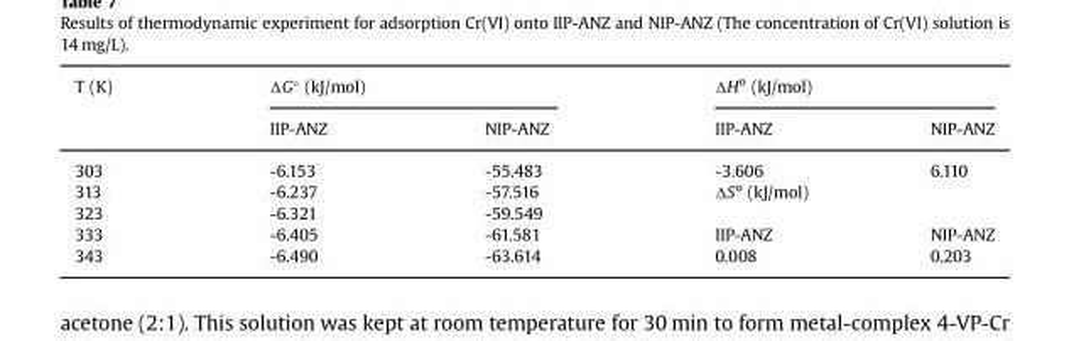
<table><thead><tr><td rowspan="2">T (K)</td><td colspan="2">ΔG° (kJ/mol)</td><td colspan="2">ΔHo (kJ/mol)</td></tr><tr><td>IIP-ANZ</td><td>NIP-ANZ</td><td>IIP-ANZ</td><td>NIP-ANZ</td></tr></thead><tbody><tr><td>303</td><td>-6.153</td><td>-55.483</td><td>-3.606</td><td>6.110</td></tr><tr><td>313</td><td>-6.237</td><td>-57.516</td><td rowspan="2" colspan="2">ΔSo (kJ/mol)</td></tr><tr><td>323</td><td>-6.321</td><td>-59.549</td></tr><tr><td>333</td><td>-6.405</td><td>-61.581</td><td>IIP-ANZ</td><td>NIP-ANZ</td></tr><tr><td>343</td><td>-6.490</td><td>-63.614</td><td>0.008</td><td>0.203</td></tr></tbody></table>